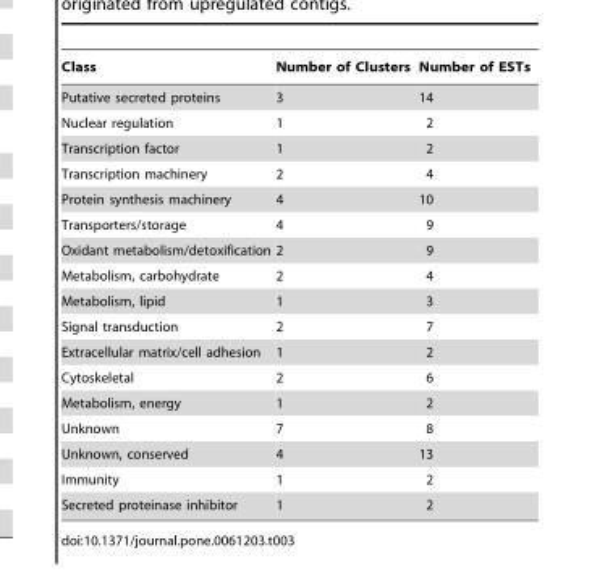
<table><thead><tr><td>Class</td><td>Number of Clusters</td><td>Number of ESTs</td></tr></thead><tbody><tr><td>Putative secreted proteins</td><td>3</td><td>14</td></tr><tr><td>Nuclear regulation</td><td>1</td><td>2</td></tr><tr><td>Transcription factor</td><td>1</td><td>2</td></tr><tr><td>Transcription machinery</td><td>2</td><td>4</td></tr><tr><td>Protein synthesis machinery</td><td>4</td><td>10</td></tr><tr><td>Transporters/storage</td><td>4</td><td>9</td></tr><tr><td>Oxidant metabolism/detoxification</td><td>2</td><td>9</td></tr><tr><td>Metabolism, carbohydrate</td><td>2</td><td>4</td></tr><tr><td>Metabolism, lipid</td><td>1</td><td>3</td></tr><tr><td>Signal transduction</td><td>2</td><td>7</td></tr><tr><td>Extracellular matrix/cell adhesion</td><td>1</td><td>2</td></tr><tr><td>Cytoskeletal</td><td>2</td><td>6</td></tr><tr><td>Metabolism, energy</td><td>1</td><td>2</td></tr><tr><td>Unknown</td><td>7</td><td>8</td></tr><tr><td>Unknown, conserved</td><td>4</td><td>13</td></tr><tr><td>Immunity</td><td>1</td><td>2</td></tr><tr><td>Secreted proteinase inhibitor</td><td>1</td><td>2</td></tr></tbody></table>